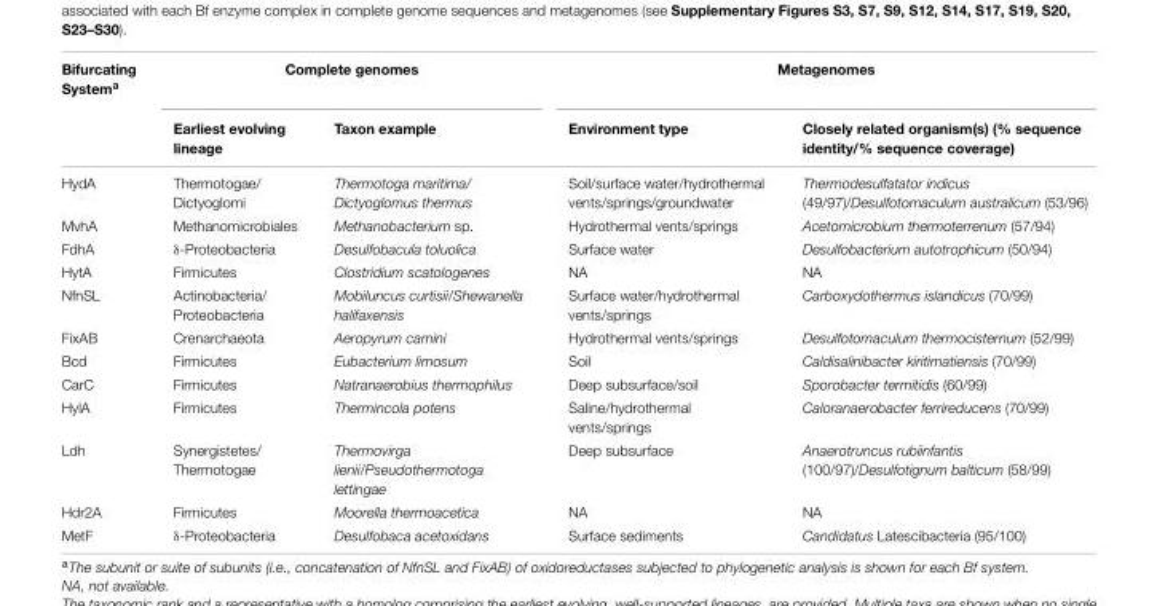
<table><thead><tr><td rowspan="2">Bifurcating System<sup>a</sup></td><td colspan="2">Complete genomes</td><td colspan="2">Metagenomes</td></tr><tr><td>Earliest evolving lineage</td><td>Taxon example</td><td>Environment type</td><td>Closely related organism(s) (% sequence identity/% sequence coverage)</td></tr></thead><tbody><tr><td>HydA</td><td>Thermotogae/ Dictyoglomi</td><td>Thermotoga maritima/ Dictyoglomus thermus</td><td>Soil/surface water/hydrothermal vents/springs/groundwater</td><td>Thermodesulfatator indicus (49/97)/Desulfotomaculum australicum (53/96)</td></tr><tr><td>MvhA</td><td>Methanomicrobiales</td><td>Methanobacterium sp.</td><td>Hydrothermal vents/springs</td><td>Acetomicrobium thermoterrenum (57/94)</td></tr><tr><td>FdhA</td><td>δ-Proteobacteria</td><td>Desulfobacula toluolica</td><td>Surface water</td><td>Desulfobacterium autotrophicum (50/94)</td></tr><tr><td>HytA</td><td>Firmicutes</td><td>Clostridium scatologenes</td><td>NA</td><td>NA</td></tr><tr><td>NfnSL</td><td>Actinobacteria/ Proteobacteria</td><td>Mobiluncus curtisii/Shewanella halifaxensis</td><td>Surface water/hydrothermal vents/springs</td><td>Carboxydothermus islandicus (70/99)</td></tr><tr><td>FixAB</td><td>Crenarchaeota</td><td>Aeropyrum camini</td><td>Hydrothermal vents/springs</td><td>Desulfotomaculum thermocisternum (52/99)</td></tr><tr><td>Bcd</td><td>Firmicutes</td><td>Eubacterium limosum</td><td>Soil</td><td>Caldisalinibacter kiritimatiensis (70/99)</td></tr><tr><td>CarC</td><td>Firmicutes</td><td>Natranaerobius thermophilus</td><td>Deep subsurface/soil</td><td>Sporobacter termitidis (60/99)</td></tr><tr><td>HylA</td><td>Firmicutes</td><td>Thermincola potens</td><td>Saline/hydrothermal vents/springs</td><td>Caloranaerobacter ferrireducens (70/99)</td></tr><tr><td>Ldh</td><td>Synergistetes/ Thermotogae</td><td>Thermovirga lienii/Pseudothermotoga lettingae</td><td>Deep subsurface</td><td>Anaerotruncus rubiinfantis (100/97)/Desulfotignum balticum (58/99)</td></tr><tr><td>Hdr2A</td><td>Firmicutes</td><td>Moorella thermoacetica</td><td>NA</td><td>NA</td></tr><tr><td>MetF</td><td>δ-Proteobacteria</td><td>Desulfobaca acetoxidans</td><td>Surface sediments</td><td>Candidatus Latescibacteria (95/100)</td></tr></tbody></table>